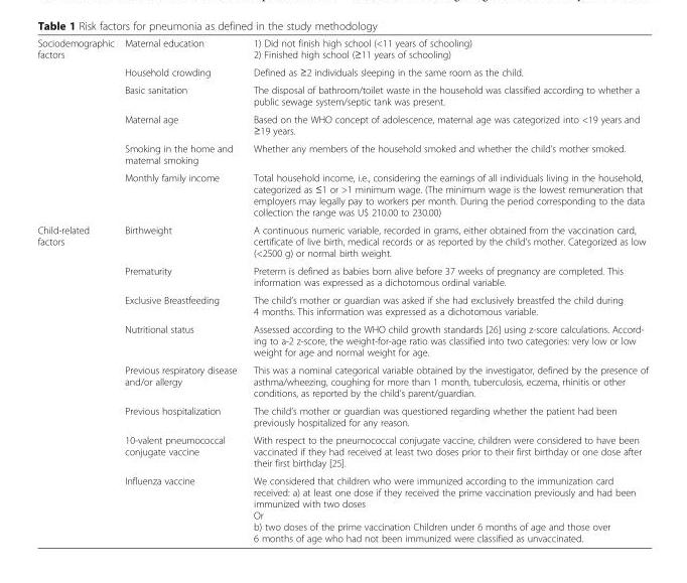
<table><tbody><tr><td rowspan="6">Sociodemographic factors</td><td>Maternal education</td><td>1) Did not finish high school (&lt;11 years of schooling) 2) Finished high school (≥11 years of schooling)</td></tr><tr><td>Household crowding</td><td>Defined as ≥2 individuals sleeping in the same room as the child.</td></tr><tr><td>Basic sanitation</td><td>The disposal of bathroom/toilet waste in the household was classified according to whether a public sewage system/septic tank was present.</td></tr><tr><td>Maternal age</td><td>Based on the WHO concept of adolescence, maternal age was categorized into &lt;19 years and ≥19 years.</td></tr><tr><td>Smoking in the home and maternal smoking</td><td>Whether any members of the household smoked and whether the child’s mother smoked.</td></tr><tr><td>Monthly family income</td><td>Total household income, i.e., considering the earnings of all individuals living in the household, categorized as ≤1 or &gt;1 minimum wage. (The minimum wage is the lowest remuneration that employers may legally pay to workers per month. During the period corresponding to the data collection the range was U$ 210.00 to 230.00)</td></tr><tr><td rowspan="8">Child-related factors</td><td>Birthweight</td><td>A continuous numeric variable, recorded in grams, either obtained from the vaccination card, certificate of live birth, medical records or as reported by the child’s mother. Categorized as low (&lt;2500 g) or normal birth weight.</td></tr><tr><td>Prematurity</td><td>Preterm is defined as babies born alive before 37 weeks of pregnancy are completed. This information was expressed as a dichotomous ordinal variable.</td></tr><tr><td>Exclusive Breastfeeding</td><td>The child’s mother or guardian was asked if she had exclusively breastfed the child during 4 months. This information was expressed as a dichotomous variable.</td></tr><tr><td>Nutritional status</td><td>Assessed according to the WHO child growth standards [26] using z-score calculations. Accord- ing to a-2 z-score, the weight-for-age ratio was classified into two categories: very low or low weight for age and normal weight for age.</td></tr><tr><td>Previous respiratory disease and/or allergy</td><td>This was a nominal categorical variable obtained by the investigator, defined by the presence of asthma/wheezing, coughing for more than 1 month, tuberculosis, eczema, rhinitis or other conditions, as reported by the child’s parent/guardian.</td></tr><tr><td>Previous hospitalization</td><td>The child’s mother or guardian was questioned regarding whether the patient had been previously hospitalized for any reason.</td></tr><tr><td>10-valent pneumococcal conjugate vaccine</td><td>With respect to the pneumococcal conjugate vaccine, children were considered to have been vaccinated if they had received at least two doses prior to their first birthday or one dose after their first birthday [25].</td></tr><tr><td>Influenza vaccine</td><td>We considered that children who were immunized according to the immunization card received: a) at least one dose if they received the prime vaccination previously and had been immunized with two doses Or b) two doses of the prime vaccination Children under 6 months of age and those over 6 months of age who had not been immunized were classified as unvaccinated.</td></tr></tbody></table>